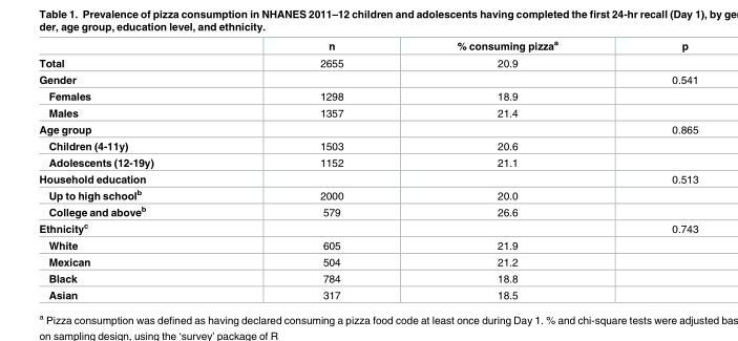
<table><thead><tr><td></td><td>n</td><td>% consuming pizza<sup>a</sup></td><td>p</td></tr></thead><tbody><tr><td>Total</td><td>2655</td><td>20.9</td><td></td></tr><tr><td>Gender</td><td></td><td></td><td>0.541</td></tr><tr><td>Females</td><td>1298</td><td>18.9</td><td></td></tr><tr><td>Males</td><td>1357</td><td>21.4</td><td></td></tr><tr><td>Age group</td><td></td><td></td><td>0.865</td></tr><tr><td>Children (4-11y)</td><td>1503</td><td>20.6</td><td></td></tr><tr><td>Adolescents (12-19y)</td><td>1152</td><td>21.1</td><td></td></tr><tr><td>Household education</td><td></td><td></td><td>0.513</td></tr><tr><td>Up to high school<sup>b</sup></td><td>2000</td><td>20.0</td><td></td></tr><tr><td>College and above<sup>b</sup></td><td>579</td><td>26.6</td><td></td></tr><tr><td>Ethnicity<sup>c</sup></td><td></td><td></td><td>0.743</td></tr><tr><td>White</td><td>605</td><td>21.9</td><td></td></tr><tr><td>Mexican</td><td>504</td><td>21.2</td><td></td></tr><tr><td>Black</td><td>784</td><td>18.8</td><td></td></tr><tr><td>Asian</td><td>317</td><td>18.5</td><td></td></tr></tbody></table>